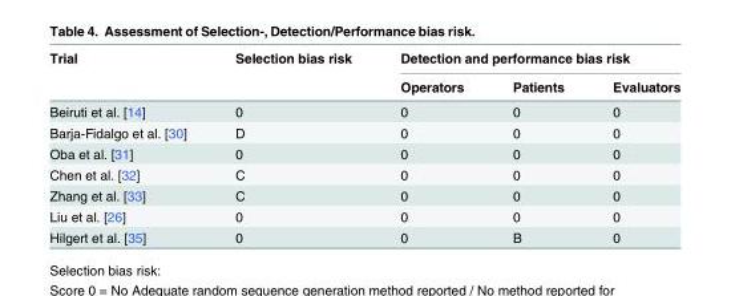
<table><thead><tr><td rowspan="2">Trial</td><td rowspan="2">Selection bias risk</td><td colspan="3">Detection and performance bias risk</td></tr><tr><td>Operators</td><td>Patients</td><td>Evaluators</td></tr></thead><tbody><tr><td>Beiruti et al. [14]</td><td>0</td><td>0</td><td>0</td><td>0</td></tr><tr><td>Barja-Fidalgo et al. [30]</td><td>D</td><td>0</td><td>0</td><td>0</td></tr><tr><td>Oba et al. [31]</td><td>0</td><td>0</td><td>0</td><td>0</td></tr><tr><td>Chen et al. [32]</td><td>C</td><td>0</td><td>0</td><td>0</td></tr><tr><td>Zhang et al. [33]</td><td>C</td><td>0</td><td>0</td><td>0</td></tr><tr><td>Liu et al. [26]</td><td>0</td><td>0</td><td>0</td><td>0</td></tr><tr><td>Hilgert et al. [35]</td><td>0</td><td>0</td><td>B</td><td>0</td></tr></tbody></table>